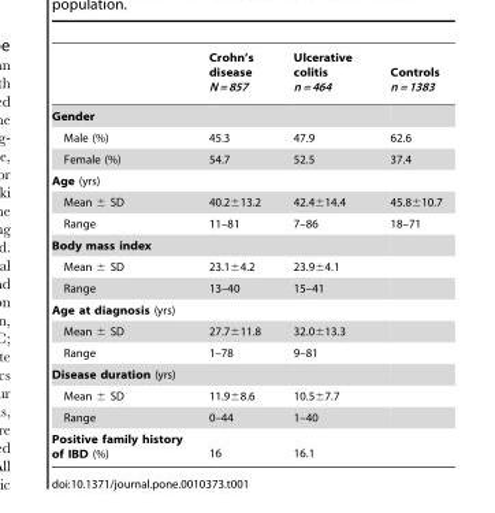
<table><thead><tr><td></td><td>Crohn’s disease N = 857</td><td>Ulcerative colitis n = 464</td><td>Controls n = 1383</td></tr></thead><tbody><tr><td colspan="4">Gender</td></tr><tr><td>Male (%)</td><td>45.3</td><td>47.9</td><td>62.6</td></tr><tr><td>Female (%)</td><td>54.7</td><td>52.5</td><td>37.4</td></tr><tr><td colspan="4">Age (yrs)</td></tr><tr><td>Mean ± SD</td><td>40.2±13.2</td><td>42.4±14.4</td><td>45.8±10.7</td></tr><tr><td>Range</td><td>11–81</td><td>7–86</td><td>18–71</td></tr><tr><td colspan="4">Body mass index</td></tr><tr><td>Mean ± SD</td><td>23.1±4.2</td><td>23.9±4.1</td><td></td></tr><tr><td>Range</td><td>13–40</td><td>15–41</td><td></td></tr><tr><td colspan="4">Age at diagnosis (yrs)</td></tr><tr><td>Mean ± SD</td><td>27.7±11.8</td><td>32.0±13.3</td><td></td></tr><tr><td>Range</td><td>1–78</td><td>9–81</td><td></td></tr><tr><td colspan="4">Disease duration (yrs)</td></tr><tr><td>Mean ± SD</td><td>11.9±8.6</td><td>10.5±7.7</td><td></td></tr><tr><td>Range</td><td>0–44</td><td>1–40</td><td></td></tr><tr><td>Positive family history of IBD (%)</td><td>16</td><td>16.1</td><td></td></tr></tbody></table>